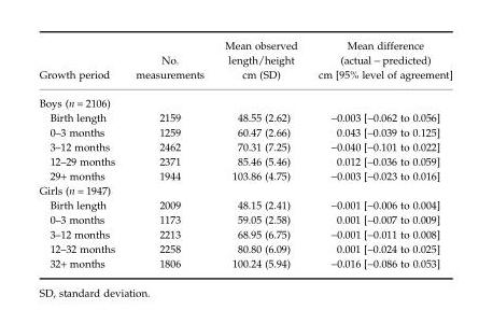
<table><thead><tr><td>Growth period</td><td>No. measurements</td><td>Mean observed length/height cm (SD)</td><td>Mean difference (actual - predicted) cm [95% level of agreement]</td></tr></thead><tbody><tr><td colspan="4">Boys (n = 2106)</td></tr><tr><td>Birth length</td><td>2159</td><td>48.55 (2.62)</td><td>-0.003 [-0.062 to 0.056]</td></tr><tr><td>0–3 months</td><td>1259</td><td>60.47 (2.66)</td><td>0.043 [-0.039 to 0.125]</td></tr><tr><td>3–12 months</td><td>2462</td><td>70.31 (7.25)</td><td>-0.040 [-0.101 to 0.022]</td></tr><tr><td>12–29 months</td><td>2371</td><td>85.46 (5.46)</td><td>0.012 [-0.036 to 0.059]</td></tr><tr><td>29+ months</td><td>1944</td><td>103.86 (4.75)</td><td>-0.003 [-0.023 to 0.016]</td></tr><tr><td colspan="4">Girls (n = 1947)</td></tr><tr><td>Birth length</td><td>2009</td><td>48.15 (2.41)</td><td>-0.001 [-0.006 to 0.004]</td></tr><tr><td>0–3 months</td><td>1173</td><td>59.05 (2.58)</td><td>0.001 [-0.007 to 0.009]</td></tr><tr><td>3–12 months</td><td>2213</td><td>68.95 (6.75)</td><td>-0.001 [-0.011 to 0.008]</td></tr><tr><td>12–32 months</td><td>2258</td><td>80.80 (6.09)</td><td>0.001 [-0.024 to 0.025]</td></tr><tr><td>32+ months</td><td>1806</td><td>100.24 (5.94)</td><td>-0.016 [-0.086 to 0.053]</td></tr></tbody></table>